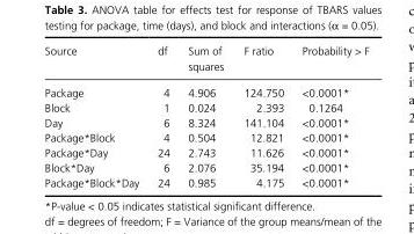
<table><thead><tr><td>Source</td><td>df</td><td>Sum of squares</td><td>F ratio</td><td>Probability &gt; F</td></tr></thead><tbody><tr><td>Package</td><td>4</td><td>4.906</td><td>124.750</td><td>&lt;0.0001 *</td></tr><tr><td>Block</td><td>1</td><td>0.024</td><td>2.393</td><td>0.1264</td></tr><tr><td>Day</td><td>6</td><td>8.324</td><td>141.104</td><td>&lt;0.0001 *</td></tr><tr><td>Package*Block</td><td>4</td><td>0.504</td><td>12.821</td><td>&lt;0.0001 *</td></tr><tr><td>Package*Day</td><td>24</td><td>2.743</td><td>11.626</td><td>&lt;0.0001 *</td></tr><tr><td>Block*Day</td><td>6</td><td>2.076</td><td>35.194</td><td>&lt;0.0001 *</td></tr><tr><td>Package*Block*Day</td><td>24</td><td>0.985</td><td>4.175</td><td>&lt;0.0001 *</td></tr></tbody></table>